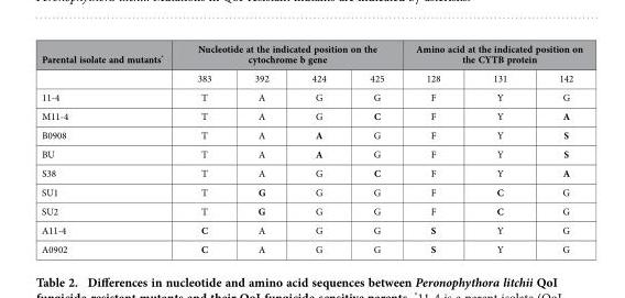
<table><thead><tr><td rowspan="2">Parental isolate and mutants*</td><td colspan="4">Nucleotide at the indicated position on the cytochrome b gene</td><td colspan="3">Amino acid at the indicated position on the CYTB protein</td></tr><tr><td>383</td><td>392</td><td>424</td><td>425</td><td>128</td><td>131</td><td>142</td></tr></thead><tbody><tr><td>11-4</td><td>T</td><td>A</td><td>G</td><td>G</td><td>F</td><td>Y</td><td>G</td></tr><tr><td>M11-4</td><td>T</td><td>A</td><td>G</td><td>C</td><td>F</td><td>Y</td><td>A</td></tr><tr><td>B0908</td><td>T</td><td>A</td><td>A</td><td>G</td><td>F</td><td>Y</td><td>S</td></tr><tr><td>BU</td><td>T</td><td>A</td><td>A</td><td>G</td><td>F</td><td>Y</td><td>S</td></tr><tr><td>S38</td><td>T</td><td>A</td><td>G</td><td>C</td><td>F</td><td>Y</td><td>A</td></tr><tr><td>SU1</td><td>T</td><td>G</td><td>G</td><td>G</td><td>F</td><td>C</td><td>G</td></tr><tr><td>SU2</td><td>T</td><td>G</td><td>G</td><td>G</td><td>F</td><td>C</td><td>G</td></tr><tr><td>A11-4</td><td>C</td><td>A</td><td>G</td><td>G</td><td>S</td><td>Y</td><td>G</td></tr><tr><td>A0902</td><td>C</td><td>A</td><td>G</td><td>G</td><td>S</td><td>Y</td><td>G</td></tr></tbody></table>